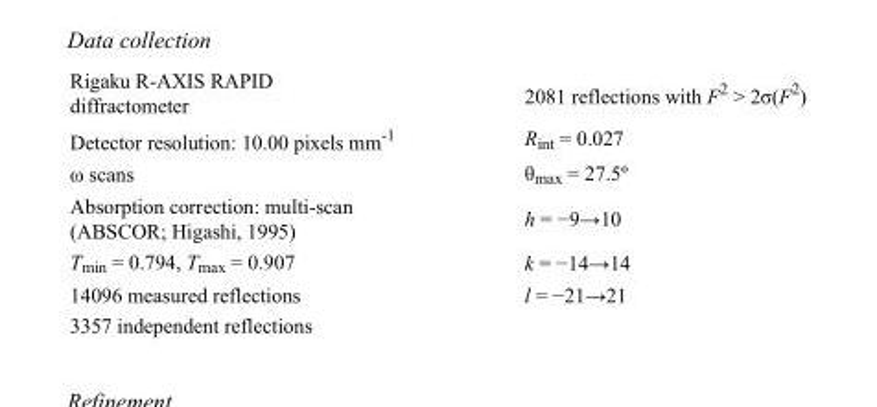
<table><tbody><tr><td>Rigaku R-AXIS RAPID diffractometer</td><td>2081 reflections with F<sup>2</sup> &gt; 2σ(F<sup>2</sup>)</td></tr><tr><td>Detector resolution: 10.00 pixels mm<sup>-1</sup></td><td>R<sub>int</sub> = 0.027</td></tr><tr><td>ω scans</td><td>θ<sub>max</sub> = 27.5º</td></tr><tr><td>Absorption correction: multi-scan (ABSCOR; Higashi, 1995)</td><td>h = −9→10</td></tr><tr><td>T<sub>min</sub> = 0.794, T<sub>max</sub> = 0.907</td><td>k = −14→14</td></tr><tr><td>14096 measured reflections</td><td>l = −21→21</td></tr><tr><td>3357 independent reflections</td><td></td></tr></tbody></table>